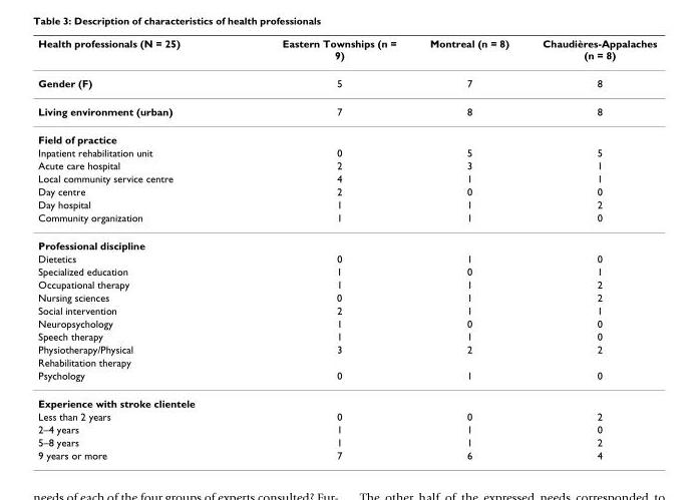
<table><thead><tr><td>Health professionals (N = 25)</td><td>Eastern Townships (n = 9)</td><td>Montreal (n = 8)</td><td>Chaudières-Appalaches (n = 8)</td></tr></thead><tbody><tr><td>Gender (F)</td><td>5</td><td>7</td><td>8</td></tr><tr><td>Living environment (urban)</td><td>7</td><td>8</td><td>8</td></tr><tr><td colspan="4">Field of practice</td></tr><tr><td>Inpatient rehabilitation unit</td><td>0</td><td>5</td><td>5</td></tr><tr><td>Acute care hospital</td><td>2</td><td>3</td><td>1</td></tr><tr><td>Local community service centre</td><td>4</td><td>1</td><td>1</td></tr><tr><td>Day centre</td><td>2</td><td>0</td><td>0</td></tr><tr><td>Day hospital</td><td>1</td><td>1</td><td>2</td></tr><tr><td>Community organization</td><td>1</td><td>1</td><td>0</td></tr><tr><td colspan="4">Professional discipline</td></tr><tr><td>Dietetics</td><td>0</td><td>1</td><td>0</td></tr><tr><td>Specialized education</td><td>1</td><td>0</td><td>1</td></tr><tr><td>Occupational therapy</td><td>1</td><td>1</td><td>2</td></tr><tr><td>Nursing sciences</td><td>0</td><td>1</td><td>2</td></tr><tr><td>Social intervention</td><td>2</td><td>1</td><td>1</td></tr><tr><td>Neuropsychology</td><td>1</td><td>0</td><td>0</td></tr><tr><td>Speech therapy</td><td>1</td><td>1</td><td>0</td></tr><tr><td>Physiotherapy/Physical</td><td>3</td><td>2</td><td>2</td></tr><tr><td colspan="4">Rehabilitation therapy</td></tr><tr><td>Psychology</td><td>0</td><td>1</td><td>0</td></tr><tr><td colspan="4">Experience with stroke clientele</td></tr><tr><td>Less than 2 years</td><td>0</td><td>0</td><td>2</td></tr><tr><td>2–4 years</td><td>1</td><td>1</td><td>0</td></tr><tr><td>5–8 years</td><td>1</td><td>1</td><td>2</td></tr><tr><td>9 years or more</td><td>7</td><td>6</td><td>4</td></tr></tbody></table>